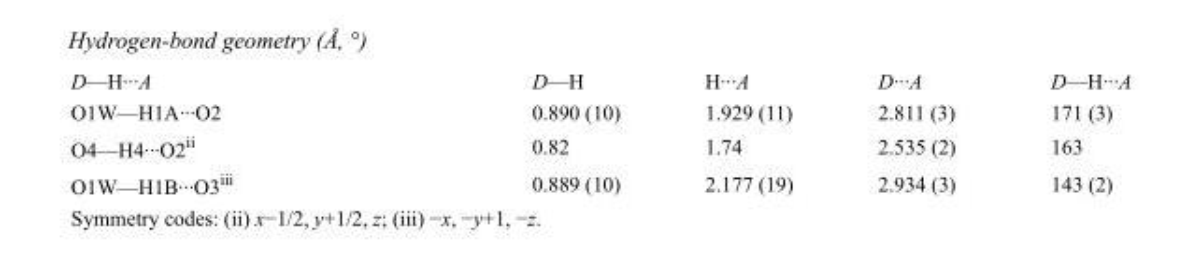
<table><tbody><tr><td>D—H···A</td><td>D—H</td><td>H···A</td><td>D···A</td><td>D—H···A</td></tr><tr><td>O1W—H1A···O2</td><td>0.890 (10)</td><td>1.929 (11)</td><td>2.811 (3)</td><td>171 (3)</td></tr><tr><td>O4—H4···O2<sup>ii</sup></td><td>0.82</td><td>1.74</td><td>2.535 (2)</td><td>163</td></tr><tr><td>O1W—H1B···O3<sup>iii</sup></td><td>0.889 (10)</td><td>2.177 (19)</td><td>2.934 (3)</td><td>143 (2)</td></tr></tbody></table>